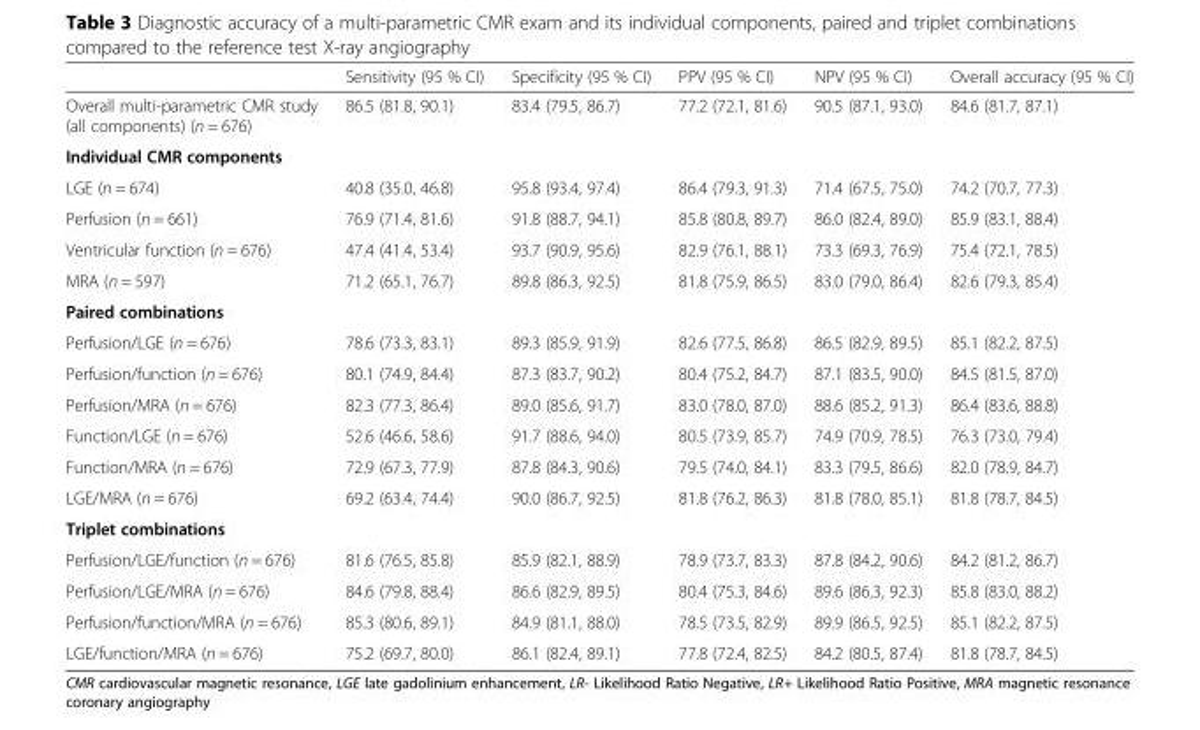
<table><thead><tr><td></td><td>Sensitivity (95 % CI)</td><td>Specificity (95 % CI)</td><td>PPV (95 % CI)</td><td>NPV (95 % CI)</td><td>Overall accuracy (95 % CI)</td></tr></thead><tbody><tr><td>Overall multi-parametric CMR study (all components) (n = 676)</td><td>86.5 (81.8, 90.1)</td><td>83.4 (79.5, 86.7)</td><td>77.2 (72.1, 81.6)</td><td>90.5 (87.1, 93.0)</td><td>84.6 (81.7, 87.1)</td></tr><tr><td colspan="6">Individual CMR components</td></tr><tr><td>LGE (n = 674)</td><td>40.8 (35.0, 46.8)</td><td>95.8 (93.4, 97.4)</td><td>86.4 (79.3, 91.3)</td><td>71.4 (67.5, 75.0)</td><td>74.2 (70.7, 77.3)</td></tr><tr><td>Perfusion (n = 661)</td><td>76.9 (71.4, 81.6)</td><td>91.8 (88.7, 94.1)</td><td>85.8 (80.8, 89.7)</td><td>86.0 (82.4, 89.0)</td><td>85.9 (83.1, 88.4)</td></tr><tr><td>Ventricular function (n = 676)</td><td>47.4 (41.4, 53.4)</td><td>93.7 (90.9, 95.6)</td><td>82.9 (76.1, 88.1)</td><td>73.3 (69.3, 76.9)</td><td>75.4 (72.1, 78.5)</td></tr><tr><td>MRA (n = 597)</td><td>71.2 (65.1, 76.7)</td><td>89.8 (86.3, 92.5)</td><td>81.8 (75.9, 86.5)</td><td>83.0 (79.0, 86.4)</td><td>82.6 (79.3, 85.4)</td></tr><tr><td colspan="6">Paired combinations</td></tr><tr><td>Perfusion/LGE (n = 676)</td><td>78.6 (73.3, 83.1)</td><td>89.3 (85.9, 91.9)</td><td>82.6 (77.5, 86.8)</td><td>86.5 (82.9, 89.5)</td><td>85.1 (82.2, 87.5)</td></tr><tr><td>Perfusion/function (n = 676)</td><td>80.1 (74.9, 84.4)</td><td>87.3 (83.7, 90.2)</td><td>80.4 (75.2, 84.7)</td><td>87.1 (83.5, 90.0)</td><td>84.5 (81.5, 87.0)</td></tr><tr><td>Perfusion/MRA (n = 676)</td><td>82.3 (77.3, 86.4)</td><td>89.0 (85.6, 91.7)</td><td>83.0 (78.0, 87.0)</td><td>88.6 (85.2, 91.3)</td><td>86.4 (83.6, 88.8)</td></tr><tr><td>Function/LGE (n = 676)</td><td>52.6 (46.6, 58.6)</td><td>91.7 (88.6, 94.0)</td><td>80.5 (73.9, 85.7)</td><td>74.9 (70.9, 78.5)</td><td>76.3 (73.0, 79.4)</td></tr><tr><td>Function/MRA (n = 676)</td><td>72.9 (67.3, 77.9)</td><td>87.8 (84.3, 90.6)</td><td>79.5 (74.0, 84.1)</td><td>83.3 (79.5, 86.6)</td><td>82.0 (78.9, 84.7)</td></tr><tr><td>LGE/MRA (n = 676)</td><td>69.2 (63.4, 74.4)</td><td>90.0 (86.7, 92.5)</td><td>81.8 (76.2, 86.3)</td><td>81.8 (78.0, 85.1)</td><td>81.8 (78.7, 84.5)</td></tr><tr><td colspan="6">Triplet combinations</td></tr><tr><td>Perfusion/LGE/function (n = 676)</td><td>81.6 (76.5, 85.8)</td><td>85.9 (82.1, 88.9)</td><td>78.9 (73.7, 83.3)</td><td>87.8 (84.2, 90.6)</td><td>84.2 (81.2, 86.7)</td></tr><tr><td>Perfusion/LGE/MRA (n = 676)</td><td>84.6 (79.8, 88.4)</td><td>86.6 (82.9, 89.5)</td><td>80.4 (75.3, 84.6)</td><td>89.6 (86.3, 92.3)</td><td>85.8 (83.0, 88.2)</td></tr><tr><td>Perfusion/function/MRA (n = 676)</td><td>85.3 (80.6, 89.1)</td><td>84.9 (81.1, 88.0)</td><td>78.5 (73.5, 82.9)</td><td>89.9 (86.5, 92.5)</td><td>85.1 (82.2, 87.5)</td></tr><tr><td>LGE/function/MRA (n = 676)</td><td>75.2 (69.7, 80.0)</td><td>86.1 (82.4, 89.1)</td><td>77.8 (72.4, 82.5)</td><td>84.2 (80.5, 87.4)</td><td>81.8 (78.7, 84.5)</td></tr></tbody></table>